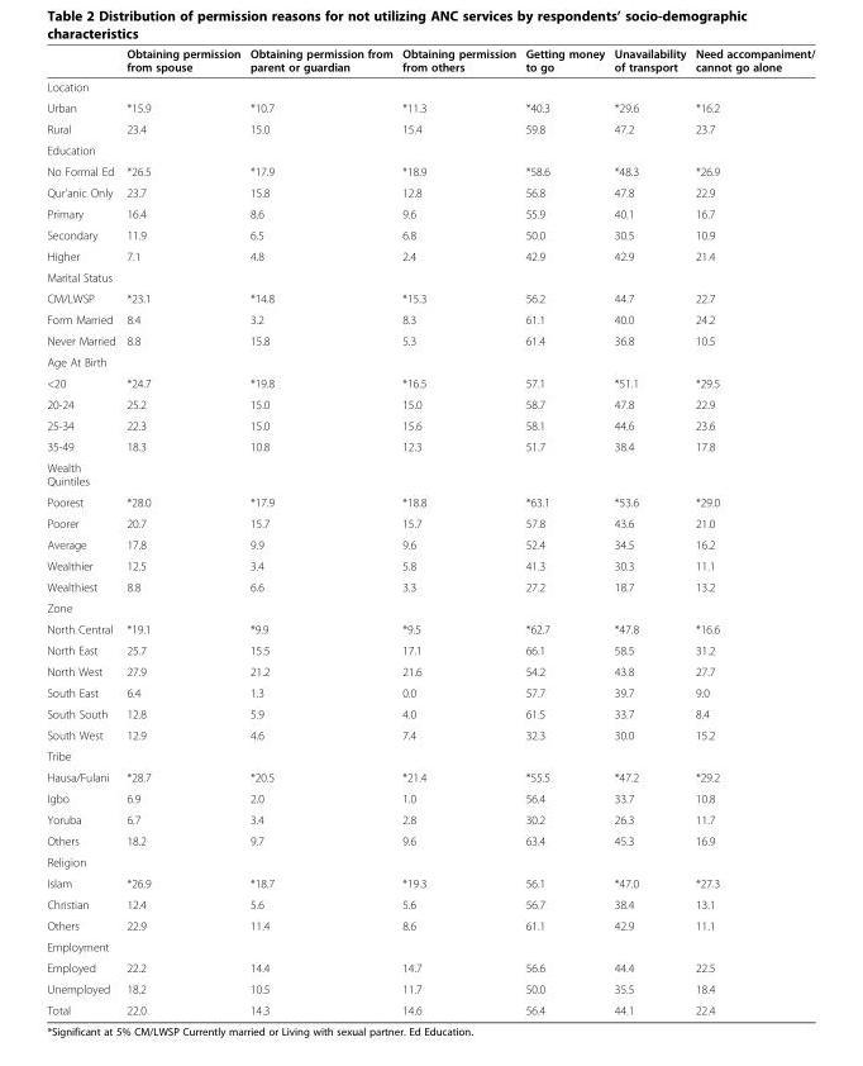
<table><thead><tr><td></td><td>Obtaining permission from spouse</td><td>Obtaining permission from parent or guardian</td><td>Obtaining permission from others</td><td>Getting money to go</td><td>Unavailability of transport</td><td>Need accompaniment/ cannot go alone</td></tr></thead><tbody><tr><td colspan="7">Location</td></tr><tr><td>Urban</td><td>*15.9</td><td>*10.7</td><td>*11.3</td><td>*40.3</td><td>*29.6</td><td>*16.2</td></tr><tr><td>Rural</td><td>23.4</td><td>15.0</td><td>15.4</td><td>59.8</td><td>47.2</td><td>23.7</td></tr><tr><td colspan="7">Education</td></tr><tr><td>No Formal Ed</td><td>*26.5</td><td>*17.9</td><td>*18.9</td><td>*58.6</td><td>*48.3</td><td>*26.9</td></tr><tr><td>Qur’anic Only</td><td>23.7</td><td>15.8</td><td>12.8</td><td>56.8</td><td>47.8</td><td>22.9</td></tr><tr><td>Primary</td><td>16.4</td><td>8.6</td><td>9.6</td><td>55.9</td><td>40.1</td><td>16.7</td></tr><tr><td>Secondary</td><td>11.9</td><td>6.5</td><td>6.8</td><td>50.0</td><td>30.5</td><td>10.9</td></tr><tr><td>Higher</td><td>7.1</td><td>4.8</td><td>2.4</td><td>42.9</td><td>42.9</td><td>21.4</td></tr><tr><td colspan="7">Marital Status</td></tr><tr><td>CM/LWSP</td><td>*23.1</td><td>*14.8</td><td>*15.3</td><td>56.2</td><td>44.7</td><td>22.7</td></tr><tr><td>Form Married</td><td>8.4</td><td>3.2</td><td>8.3</td><td>61.1</td><td>40.0</td><td>24.2</td></tr><tr><td>Never Married</td><td>8.8</td><td>15.8</td><td>5.3</td><td>61.4</td><td>36.8</td><td>10.5</td></tr><tr><td colspan="7">Age At Birth</td></tr><tr><td>&lt;20</td><td>*24.7</td><td>*19.8</td><td>*16.5</td><td>57.1</td><td>*51.1</td><td>*29.5</td></tr><tr><td>20-24</td><td>25.2</td><td>15.0</td><td>15.0</td><td>58.7</td><td>47.8</td><td>22.9</td></tr><tr><td>25-34</td><td>22.3</td><td>15.0</td><td>15.6</td><td>58.1</td><td>44.6</td><td>23.6</td></tr><tr><td>35-49</td><td>18.3</td><td>10.8</td><td>12.3</td><td>51.7</td><td>38.4</td><td>17.8</td></tr><tr><td colspan="7">Wealth Quintiles</td></tr><tr><td>Poorest</td><td>*28.0</td><td>*17.9</td><td>*18.8</td><td>*63.1</td><td>*53.6</td><td>*29.0</td></tr><tr><td>Poorer</td><td>20.7</td><td>15.7</td><td>15.7</td><td>57.8</td><td>43.6</td><td>21.0</td></tr><tr><td>Average</td><td>17.8</td><td>9.9</td><td>9.6</td><td>52.4</td><td>34.5</td><td>16.2</td></tr><tr><td>Wealthier</td><td>12.5</td><td>3.4</td><td>5.8</td><td>41.3</td><td>30.3</td><td>11.1</td></tr><tr><td>Wealthiest</td><td>8.8</td><td>6.6</td><td>3.3</td><td>27.2</td><td>18.7</td><td>13.2</td></tr><tr><td colspan="7">Zone</td></tr><tr><td>North Central</td><td>*19.1</td><td>*9.9</td><td>*9.5</td><td>*62.7</td><td>*47.8</td><td>*16.6</td></tr><tr><td>North East</td><td>25.7</td><td>15.5</td><td>17.1</td><td>66.1</td><td>58.5</td><td>31.2</td></tr><tr><td>North West</td><td>27.9</td><td>21.2</td><td>21.6</td><td>54.2</td><td>43.8</td><td>27.7</td></tr><tr><td>South East</td><td>6.4</td><td>1.3</td><td>0.0</td><td>57.7</td><td>39.7</td><td>9.0</td></tr><tr><td>South South</td><td>12.8</td><td>5.9</td><td>4.0</td><td>61.5</td><td>33.7</td><td>8.4</td></tr><tr><td>South West</td><td>12.9</td><td>4.6</td><td>7.4</td><td>32.3</td><td>30.0</td><td>15.2</td></tr><tr><td colspan="7">Tribe</td></tr><tr><td>Hausa/Fulani</td><td>*28.7</td><td>*20.5</td><td>*21.4</td><td>*55.5</td><td>*47.2</td><td>*29.2</td></tr><tr><td>Igbo</td><td>6.9</td><td>2.0</td><td>1.0</td><td>56.4</td><td>33.7</td><td>10.8</td></tr><tr><td>Yoruba</td><td>6.7</td><td>3.4</td><td>2.8</td><td>30.2</td><td>26.3</td><td>11.7</td></tr><tr><td>Others</td><td>18.2</td><td>9.7</td><td>9.6</td><td>63.4</td><td>45.3</td><td>16.9</td></tr><tr><td colspan="7">Religion</td></tr><tr><td>Islam</td><td>*26.9</td><td>*18.7</td><td>*19.3</td><td>56.1</td><td>*47.0</td><td>*27.3</td></tr><tr><td>Christian</td><td>12.4</td><td>5.6</td><td>5.6</td><td>56.7</td><td>38.4</td><td>13.1</td></tr><tr><td>Others</td><td>22.9</td><td>11.4</td><td>8.6</td><td>61.1</td><td>42.9</td><td>11.1</td></tr><tr><td colspan="7">Employment</td></tr><tr><td>Employed</td><td>22.2</td><td>14.4</td><td>14.7</td><td>56.6</td><td>44.4</td><td>22.5</td></tr><tr><td>Unemployed</td><td>18.2</td><td>10.5</td><td>11.7</td><td>50.0</td><td>35.5</td><td>18.4</td></tr><tr><td>Total</td><td>22.0</td><td>14.3</td><td>14.6</td><td>56.4</td><td>44.1</td><td>22.4</td></tr></tbody></table>